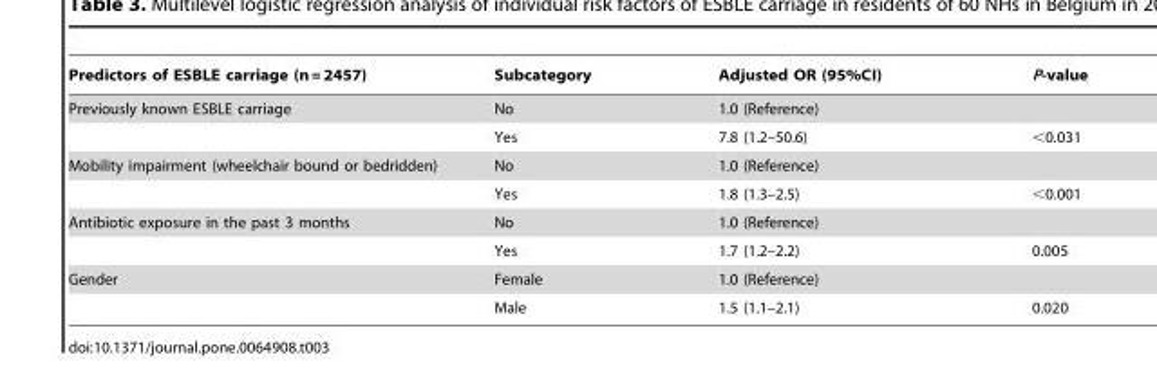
<table><thead><tr><td>Predictors of ESBLE carriage (n = 2457)</td><td>Subcategory</td><td>Adjusted OR (95%CI)</td><td>P-value</td></tr></thead><tbody><tr><td rowspan="2">Previously known ESBLE carriage</td><td>No</td><td>1.0 (Reference)</td><td></td></tr><tr><td>Yes</td><td>7.8 (1.2–50.6)</td><td>&lt;0.031</td></tr><tr><td rowspan="2">Mobility impairment (wheelchair bound or bedridden)</td><td>No</td><td>1.0 (Reference)</td><td></td></tr><tr><td>Yes</td><td>1.8 (1.3–2.5)</td><td>&lt;0.001</td></tr><tr><td rowspan="2">Antibiotic exposure in the past 3 months</td><td>No</td><td>1.0 (Reference)</td><td></td></tr><tr><td>Yes</td><td>1.7 (1.2–2.2)</td><td>0.005</td></tr><tr><td rowspan="2">Gender</td><td>Female</td><td>1.0 (Reference)</td><td></td></tr><tr><td>Male</td><td>1.5 (1.1–2.1)</td><td>0.020</td></tr></tbody></table>